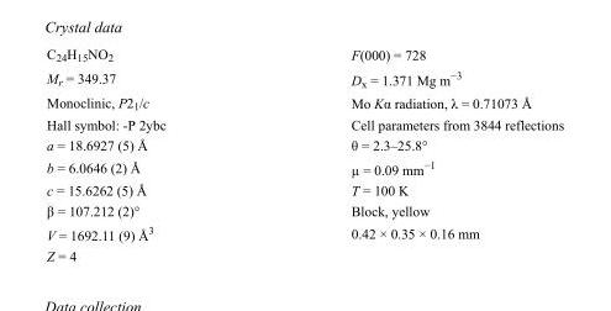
<table><tbody><tr><td>C<sub>24</sub>H<sub>15</sub>NO<sub>2</sub></td><td>F(000) = 728</td></tr><tr><td>M<sub>r</sub> = 349.37</td><td>D<sub>x</sub> = 1.371 Mg m<sup>−3</sup></td></tr><tr><td>Monoclinic, P2<sub>1</sub>/c</td><td>Mo Kα radiation, λ = 0.71073 Å</td></tr><tr><td>Hall symbol: -P 2ybc</td><td>Cell parameters from 3844 reflections</td></tr><tr><td>a = 18.6927 (5) Å</td><td>θ = 2.3–25.8°</td></tr><tr><td>b = 6.0646 (2) Å</td><td>µ = 0.09 mm<sup>−1</sup></td></tr><tr><td>c = 15.6262 (5) Å</td><td>T = 100 K</td></tr><tr><td>β = 107.212 (2)°</td><td>Block, yellow</td></tr><tr><td>V = 1692.11 (9) Å<sup>3</sup></td><td>0.42 × 0.35 × 0.16 mm</td></tr><tr><td>Z = 4</td><td></td></tr></tbody></table>